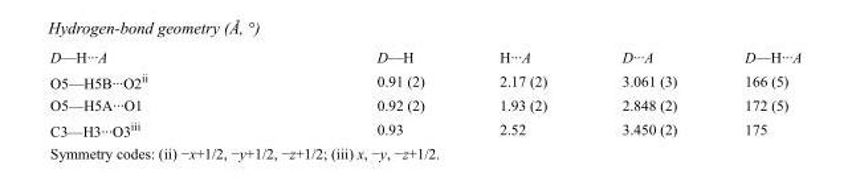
<table><tbody><tr><td>D—H···A</td><td>D—H</td><td>H···A</td><td>D···A</td><td>D—H···A</td></tr><tr><td>O5—H5B···O2ii</td><td>0.91 (2)</td><td>2.17 (2)</td><td>3.061 (3)</td><td>166 (5)</td></tr><tr><td>O5—H5A···O1</td><td>0.92 (2)</td><td>1.93 (2)</td><td>2.848 (2)</td><td>172 (5)</td></tr><tr><td>C3—H3···O3iii</td><td>0.93</td><td>2.52</td><td>3.450 (2)</td><td>175</td></tr></tbody></table>